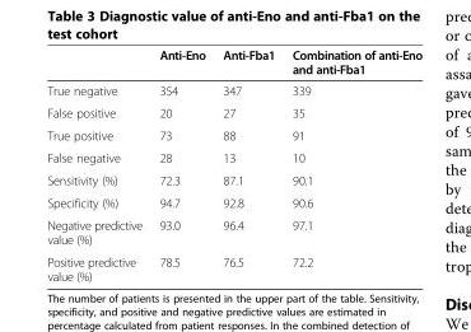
<table><thead><tr><td></td><td>Anti-Eno</td><td>Anti-Fba1</td><td>Combination of anti-Eno and anti-Fba1</td></tr></thead><tbody><tr><td>True negative</td><td>354</td><td>347</td><td>339</td></tr><tr><td>False positive</td><td>20</td><td>27</td><td>35</td></tr><tr><td>True positive</td><td>73</td><td>88</td><td>91</td></tr><tr><td>False negative</td><td>28</td><td>13</td><td>10</td></tr><tr><td>Sensitivity (%)</td><td>72.3</td><td>87.1</td><td>90.1</td></tr><tr><td>Specificity (%)</td><td>94.7</td><td>92.8</td><td>90.6</td></tr><tr><td>Negative predictive value (%)</td><td>93.0</td><td>96.4</td><td>97.1</td></tr><tr><td>Positive predictive value (%)</td><td>78.5</td><td>76.5</td><td>72.2</td></tr></tbody></table>